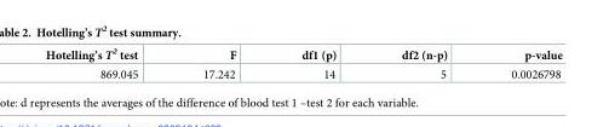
<table><thead><tr><td>Hotelling’s T<sup>2</sup> test</td><td>F</td><td>df1 (p)</td><td>df2 (n-p)</td><td>p-value</td></tr></thead><tbody><tr><td>869.045</td><td>17.242</td><td>14</td><td>5</td><td>0.0026798</td></tr></tbody></table>